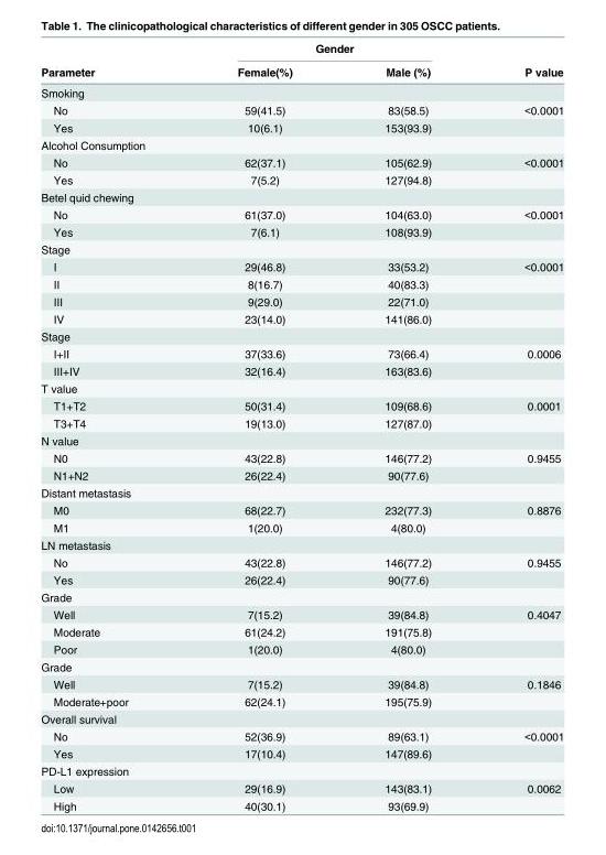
<table><thead><tr><td rowspan="2">Parameter</td><td colspan="2">Gender</td><td rowspan="2">P value</td></tr><tr><td>Female(%)</td><td>Male (%)</td></tr></thead><tbody><tr><td colspan="4">Smoking</td></tr><tr><td>No</td><td>59(41.5)</td><td>83(58.5)</td><td>&lt;0.0001</td></tr><tr><td>Yes</td><td>10(6.1)</td><td>153(93.9)</td><td></td></tr><tr><td colspan="4">Alcohol Consumption</td></tr><tr><td>No</td><td>62(37.1)</td><td>105(62.9)</td><td>&lt;0.0001</td></tr><tr><td>Yes</td><td>7(5.2)</td><td>127(94.8)</td><td></td></tr><tr><td colspan="4">Betel quid chewing</td></tr><tr><td>No</td><td>61(37.0)</td><td>104(63.0)</td><td>&lt;0.0001</td></tr><tr><td>Yes</td><td>7(6.1)</td><td>108(93.9)</td><td></td></tr><tr><td colspan="4">Stage</td></tr><tr><td>I</td><td>29(46.8)</td><td>33(53.2)</td><td>&lt;0.0001</td></tr><tr><td>II</td><td>8(16.7)</td><td>40(83.3)</td><td></td></tr><tr><td>III</td><td>9(29.0)</td><td>22(71.0)</td><td></td></tr><tr><td>IV</td><td>23(14.0)</td><td>141(86.0)</td><td></td></tr><tr><td colspan="4">Stage</td></tr><tr><td>I+II</td><td>37(33.6)</td><td>73(66.4)</td><td>0.0006</td></tr><tr><td>III+IV</td><td>32(16.4)</td><td>163(83.6)</td><td></td></tr><tr><td colspan="4">T value</td></tr><tr><td>T1+T2</td><td>50(31.4)</td><td>109(68.6)</td><td>0.0001</td></tr><tr><td>T3+T4</td><td>19(13.0)</td><td>127(87.0)</td><td></td></tr><tr><td colspan="4">N value</td></tr><tr><td>N0</td><td>43(22.8)</td><td>146(77.2)</td><td>0.9455</td></tr><tr><td>N1+N2</td><td>26(22.4)</td><td>90(77.6)</td><td></td></tr><tr><td colspan="4">Distant metastasis</td></tr><tr><td>M0</td><td>68(22.7)</td><td>232(77.3)</td><td>0.8876</td></tr><tr><td>M1</td><td>1(20.0)</td><td>4(80.0)</td><td></td></tr><tr><td colspan="4">LN metastasis</td></tr><tr><td>No</td><td>43(22.8)</td><td>146(77.2)</td><td>0.9455</td></tr><tr><td>Yes</td><td>26(22.4)</td><td>90(77.6)</td><td></td></tr><tr><td colspan="4">Grade</td></tr><tr><td>Well</td><td>7(15.2)</td><td>39(84.8)</td><td>0.4047</td></tr><tr><td>Moderate</td><td>61(24.2)</td><td>191(75.8)</td><td></td></tr><tr><td>Poor</td><td>1(20.0)</td><td>4(80.0)</td><td></td></tr><tr><td colspan="4">Grade</td></tr><tr><td>Well</td><td>7(15.2)</td><td>39(84.8)</td><td>0.1846</td></tr><tr><td>Moderate+poor</td><td>62(24.1)</td><td>195(75.9)</td><td></td></tr><tr><td colspan="4">Overall survival</td></tr><tr><td>No</td><td>52(36.9)</td><td>89(63.1)</td><td>&lt;0.0001</td></tr><tr><td>Yes</td><td>17(10.4)</td><td>147(89.6)</td><td></td></tr><tr><td colspan="4">PD-L1 expression</td></tr><tr><td>Low</td><td>29(16.9)</td><td>143(83.1)</td><td>0.0062</td></tr><tr><td>High</td><td>40(30.1)</td><td>93(69.9)</td><td></td></tr></tbody></table>